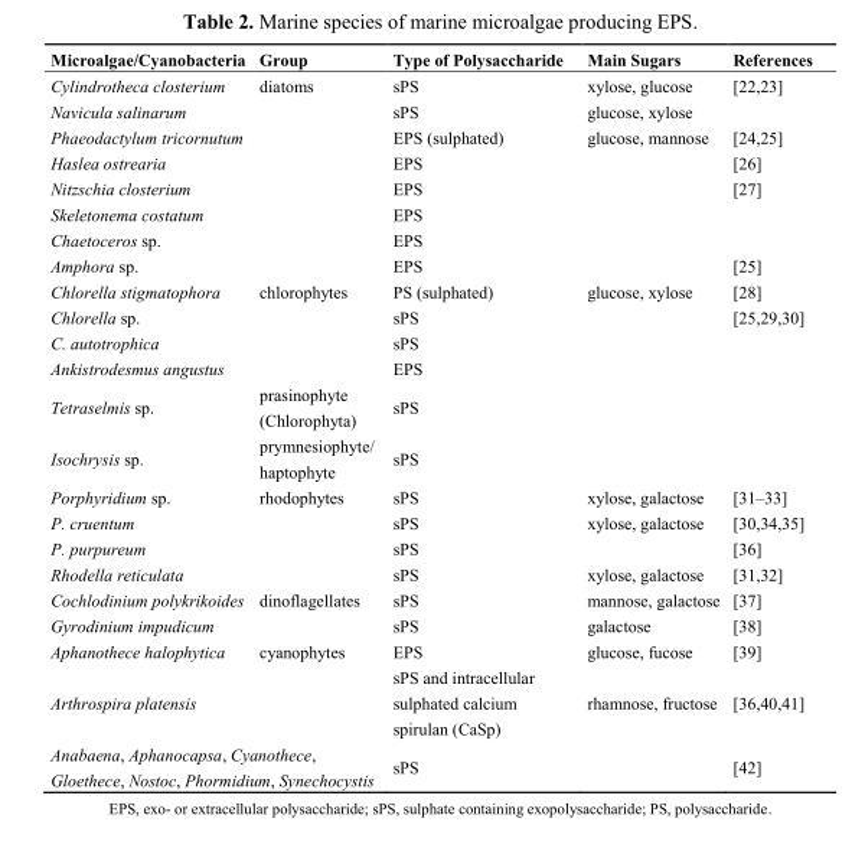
<table><thead><tr><td>Microalgae/Cyanobacteria</td><td>Group</td><td>Type of Polysaccharide</td><td>Main Sugars</td><td>References</td></tr></thead><tbody><tr><td>Cylindrotheca closterium</td><td>diatoms</td><td>sPS</td><td>xylose, glucose</td><td>[22,23]</td></tr><tr><td>Navicula salinarum</td><td></td><td>sPS</td><td>glucose, xylose</td><td></td></tr><tr><td>Phaeodactylum tricornutum</td><td></td><td>EPS (sulphated)</td><td>glucose, mannose</td><td>[24,25]</td></tr><tr><td>Haslea ostrearia</td><td></td><td>EPS</td><td></td><td>[26]</td></tr><tr><td>Nitzschia closterium</td><td></td><td>EPS</td><td></td><td>[27]</td></tr><tr><td>Skeletonema costatum</td><td></td><td>EPS</td><td></td><td></td></tr><tr><td>Chaetoceros sp.</td><td></td><td>EPS</td><td></td><td></td></tr><tr><td>Amphora sp.</td><td></td><td>EPS</td><td></td><td>[25]</td></tr><tr><td>Chlorella stigmatophora</td><td>chlorophytes</td><td>PS (sulphated)</td><td>glucose, xylose</td><td>[28]</td></tr><tr><td>Chlorella sp.</td><td></td><td>sPS</td><td></td><td>[25,29,30]</td></tr><tr><td>C. autotrophica</td><td></td><td>sPS</td><td></td><td></td></tr><tr><td>Ankistrodesmus angustus</td><td></td><td>EPS</td><td></td><td></td></tr><tr><td>Tetraselmis sp.</td><td>prasinophyte (Chlorophyta)</td><td>sPS</td><td></td><td></td></tr><tr><td>Isochrysis sp.</td><td>prymnesiophyte/ haptophyte</td><td>sPS</td><td></td><td></td></tr><tr><td>Porphyridium sp.</td><td>rhodophytes</td><td>sPS</td><td>xylose, galactose</td><td>[31–33]</td></tr><tr><td>P. cruentum</td><td></td><td>sPS</td><td>xylose, galactose</td><td>[30,34,35]</td></tr><tr><td>P. purpureum</td><td></td><td>sPS</td><td></td><td>[36]</td></tr><tr><td>Rhodella reticulata</td><td></td><td>sPS</td><td>xylose, galactose</td><td>[31,32]</td></tr><tr><td>Cochlodinium polykrikoides</td><td>dinoflagellates</td><td>sPS</td><td>mannose, galactose</td><td>[37]</td></tr><tr><td>Gyrodinium impudicum</td><td></td><td>sPS</td><td>galactose</td><td>[38]</td></tr><tr><td>Aphanothece halophytica</td><td>cyanophytes</td><td>EPS</td><td>glucose, fucose</td><td>[39]</td></tr><tr><td>Arthrospira platensis</td><td></td><td>sPS and intracellular sulphated calcium spirulan (CaSp)</td><td>rhamnose, fructose</td><td>[36,40,41]</td></tr><tr><td colspan="2">Anabaena, Aphanocapsa, Cyanothece, Gloethece, Nostoc, Phormidium, Synechocystis</td><td>sPS</td><td></td><td>[42]</td></tr></tbody></table>